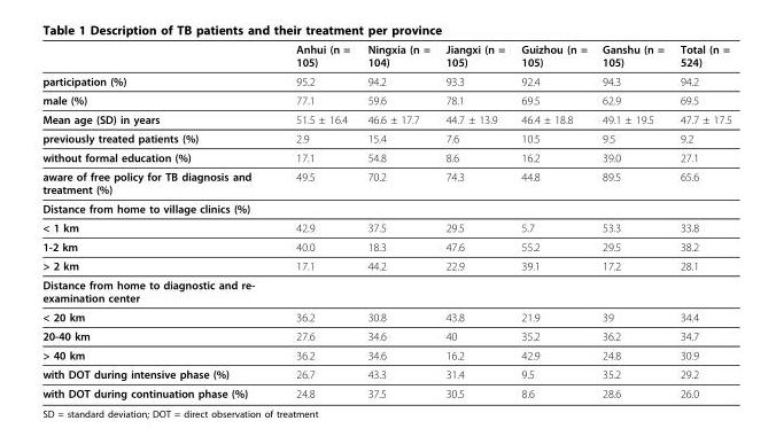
<table><thead><tr><td></td><td>Anhui (n = 105)</td><td>Ningxia (n = 104)</td><td>Jiangxi (n = 105)</td><td>Guizhou (n = 105)</td><td>Ganshu (n = 105)</td><td>Total (n = 524)</td></tr></thead><tbody><tr><td>participation (%)</td><td>95.2</td><td>94.2</td><td>93.3</td><td>92.4</td><td>94.3</td><td>94.2</td></tr><tr><td>male (%)</td><td>77.1</td><td>59.6</td><td>78.1</td><td>69.5</td><td>62.9</td><td>69.5</td></tr><tr><td>Mean age (SD) in years</td><td>51.5 ± 16.4</td><td>46.6 ± 17.7</td><td>44.7 ± 13.9</td><td>46.4 ± 18.8</td><td>49.1 ± 19.5</td><td>47.7 ± 17.5</td></tr><tr><td>previously treated patients (%)</td><td>2.9</td><td>15.4</td><td>7.6</td><td>10.5</td><td>9.5</td><td>9.2</td></tr><tr><td>without formal education (%)</td><td>17.1</td><td>54.8</td><td>8.6</td><td>16.2</td><td>39.0</td><td>27.1</td></tr><tr><td>aware of free policy for TB diagnosis and treatment (%)</td><td>49.5</td><td>70.2</td><td>74.3</td><td>44.8</td><td>89.5</td><td>65.6</td></tr><tr><td colspan="7">Distance from home to village clinics (%)</td></tr><tr><td>&lt; 1 km</td><td>42.9</td><td>37.5</td><td>29.5</td><td>5.7</td><td>53.3</td><td>33.8</td></tr><tr><td>1-2 km</td><td>40.0</td><td>18.3</td><td>47.6</td><td>55.2</td><td>29.5</td><td>38.2</td></tr><tr><td>&gt; 2 km</td><td>17.1</td><td>44.2</td><td>22.9</td><td>39.1</td><td>17.2</td><td>28.1</td></tr><tr><td colspan="7">Distance from home to diagnostic and re- examination center</td></tr><tr><td>&lt; 20 km</td><td>36.2</td><td>30.8</td><td>43.8</td><td>21.9</td><td>39</td><td>34.4</td></tr><tr><td>20-40 km</td><td>27.6</td><td>34.6</td><td>40</td><td>35.2</td><td>36.2</td><td>34.7</td></tr><tr><td>&gt; 40 km</td><td>36.2</td><td>34.6</td><td>16.2</td><td>42.9</td><td>24.8</td><td>30.9</td></tr><tr><td>with DOT during intensive phase (%)</td><td>26.7</td><td>43.3</td><td>31.4</td><td>9.5</td><td>35.2</td><td>29.2</td></tr><tr><td>with DOT during continuation phase (%)</td><td>24.8</td><td>37.5</td><td>30.5</td><td>8.6</td><td>28.6</td><td>26.0</td></tr></tbody></table>